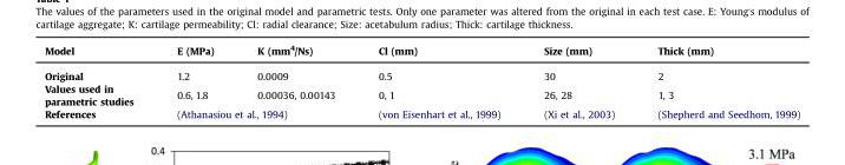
<table><thead><tr><td>Model</td><td>E (MPa)</td><td>K (mm<sup>4</sup>/Ns)</td><td>Cl (mm)</td><td>Size (mm)</td><td>Thick (mm)</td></tr></thead><tbody><tr><td>Original</td><td>1.2</td><td>0.0009</td><td>0.5</td><td>30</td><td>2</td></tr><tr><td>Values used in parametric studies</td><td>0.6, 1.8</td><td>0.00036, 0.00143</td><td>0, 1</td><td>26, 28</td><td>1, 3</td></tr><tr><td>References</td><td colspan="2">(Athanasiou et al., 1994)</td><td>(von Eisenhart et al., 1999)</td><td>(Xi et al., 2003)</td><td>(Shepherd and Seedhom, 1999)</td></tr></tbody></table>